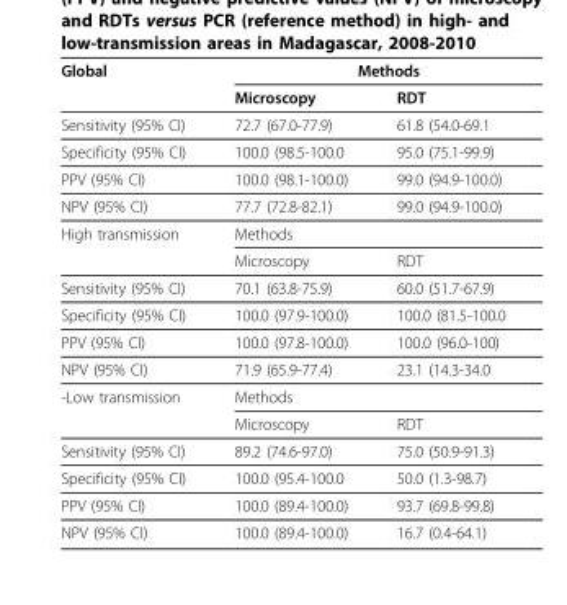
<table><thead><tr><td rowspan="2">Global</td><td colspan="2">Methods</td></tr><tr><td>Microscopy</td><td>RDT</td></tr></thead><tbody><tr><td>Sensitivity (95% CI)</td><td>72.7 (67.0-77.9)</td><td>61.8 (54.0-69.1</td></tr><tr><td>Specificity (95% CI)</td><td>100.0 (98.5-100.0</td><td>95.0 (75.1-99.9)</td></tr><tr><td>PPV (95% CI)</td><td>100.0 (98.1-100.0)</td><td>99.0 (94.9-100.0)</td></tr><tr><td>NPV (95% CI)</td><td>77.7 (72.8-82.1)</td><td>99.0 (94.9-100.0)</td></tr><tr><td rowspan="2">High transmission</td><td colspan="2">Methods</td></tr><tr><td>Microscopy</td><td>RDT</td></tr><tr><td>Sensitivity (95% CI)</td><td>70.1 (63.8-75.9)</td><td>60.0 (51.7-67.9)</td></tr><tr><td>Specificity (95% CI)</td><td>100.0 (97.9-100.0)</td><td>100.0 (81.5-100.0</td></tr><tr><td>PPV (95% CI)</td><td>100.0 (97.8-100.0)</td><td>100.0 (96.0-100)</td></tr><tr><td>NPV (95% CI)</td><td>71.9 (65.9-77.4)</td><td>23.1 (14.3-34.0</td></tr><tr><td rowspan="2">-Low transmission</td><td colspan="2">Methods</td></tr><tr><td>Microscopy</td><td>RDT</td></tr><tr><td>Sensitivity (95% CI)</td><td>89.2 (74.6-97.0)</td><td>75.0 (50.9-91.3)</td></tr><tr><td>Specificity (95% CI)</td><td>100.0 (95.4-100.0</td><td>50.0 (1.3-98.7)</td></tr><tr><td>PPV (95% CI)</td><td>100.0 (89.4-100.0)</td><td>93.7 (69.8-99.8)</td></tr><tr><td>NPV (95% CI)</td><td>100.0 (89.4-100.0)</td><td>16.7 (0.4-64.1)</td></tr></tbody></table>